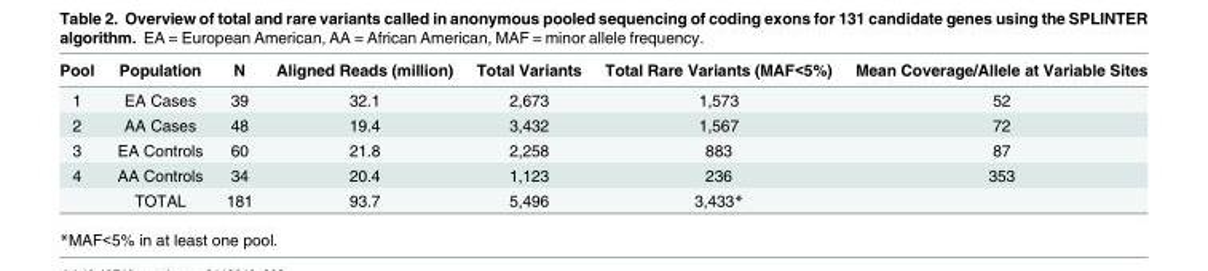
<table><thead><tr><td>Pool</td><td>Population</td><td>N</td><td>Aligned Reads (million)</td><td>Total Variants</td><td>Total Rare Variants (MAF&lt;5%)</td><td>Mean Coverage/Allele at Variable Sites</td></tr></thead><tbody><tr><td>1</td><td>EA Cases</td><td>39</td><td>32.1</td><td>2,673</td><td>1,573</td><td>52</td></tr><tr><td>2</td><td>AA Cases</td><td>48</td><td>19.4</td><td>3,432</td><td>1,567</td><td>72</td></tr><tr><td>3</td><td>EA Controls</td><td>60</td><td>21.8</td><td>2,258</td><td>883</td><td>87</td></tr><tr><td rowspan="2">4</td><td>AA Controls</td><td>34</td><td>20.4</td><td>1,123</td><td>236</td><td>353</td></tr><tr><td>TOTAL</td><td>181</td><td>93.7</td><td>5,496</td><td>3,433*</td><td></td></tr></tbody></table>